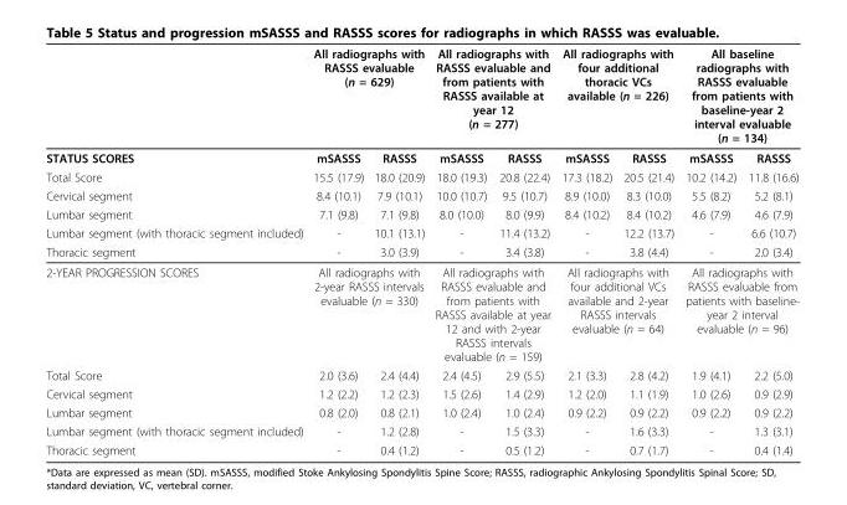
<table><thead><tr><td rowspan="2">STATUS SCORES</td><td colspan="2">All radiographs with RASSS evaluable (n = 629)</td><td colspan="2">All radiographs with RASSS evaluable and from patients with RASSS available at year 12 (n = 277)</td><td colspan="2">All radiographs with four additional thoracic VCs available (n = 226)</td><td colspan="2">All baseline radiographs with RASSS evaluable from patients with baseline-year 2 interval evaluable (n = 134)</td></tr><tr><td>mSASSS</td><td>RASSS</td><td>mSASSS</td><td>RASSS</td><td>mSASSS</td><td>RASSS</td><td>mSASSS</td><td>RASSS</td></tr></thead><tbody><tr><td>Total Score</td><td>15.5 (17.9)</td><td>18.0 (20.9)</td><td>18.0 (19.3)</td><td>20.8 (22.4)</td><td>17.3 (18.2)</td><td>20.5 (21.4)</td><td>10.2 (14.2)</td><td>11.8 (16.6)</td></tr><tr><td>Cervical segment</td><td>8.4 (10.1)</td><td>7.9 (10.1)</td><td>10.0 (10.7)</td><td>9.5 (10.7)</td><td>8.9 (10.0)</td><td>8.3 (10.0)</td><td>5.5 (8.2)</td><td>5.2 (8.1)</td></tr><tr><td>Lumbar segment</td><td>7.1 (9.8)</td><td>7.1 (9.8)</td><td>8.0 (10.0)</td><td>8.0 (9.9)</td><td>8.4 (10.2)</td><td>8.4 (10.2)</td><td>4.6 (7.9)</td><td>4.6 (7.9)</td></tr><tr><td>Lumbar segment (with thoracic segment included)</td><td>-</td><td>10.1 (13.1)</td><td>-</td><td>11.4 (13.2)</td><td>-</td><td>12.2 (13.7)</td><td>-</td><td>6.6 (10.7)</td></tr><tr><td>Thoracic segment</td><td>-</td><td>3.0 (3.9)</td><td>-</td><td>3.4 (3.8)</td><td>-</td><td>3.8 (4.4)</td><td>-</td><td>2.0 (3.4)</td></tr><tr><td>2-YEAR PROGRESSION SCORES</td><td colspan="2">All radiographs with 2-year RASSS intervals evaluable (n = 330)</td><td colspan="2">All radiographs with RASSS evaluable and from patients with RASSS available at year 12 and with 2-year RASSS intervals evaluable (n = 159)</td><td colspan="2">All radiographs with four additional VCs available and 2-year RASSS intervals evaluable (n = 64)</td><td colspan="2">All radiographs with RASSS evaluable from patients with baseline- year 2 interval evaluable (n = 96)</td></tr><tr><td>Total Score</td><td>2.0 (3.6)</td><td>2.4 (4.4)</td><td>2.4 (4.5)</td><td>2.9 (5.5)</td><td>2.1 (3.3)</td><td>2.8 (4.2)</td><td>1.9 (4.1)</td><td>2.2 (5.0)</td></tr><tr><td>Cervical segment</td><td>1.2 (2.2)</td><td>1.2 (2.3)</td><td>1.5 (2.6)</td><td>1.4 (2.9)</td><td>1.2 (2.0)</td><td>1.1 (1.9)</td><td>1.0 (2.6)</td><td>0.9 (2.9)</td></tr><tr><td>Lumbar segment</td><td>0.8 (2.0)</td><td>0.8 (2.1)</td><td>1.0 (2.4)</td><td>1.0 (2.4)</td><td>0.9 (2.2)</td><td>0.9 (2.2)</td><td>0.9 (2.2)</td><td>0.9 (2.2)</td></tr><tr><td>Lumbar segment (with thoracic segment included)</td><td>-</td><td>1.2 (2.8)</td><td>-</td><td>1.5 (3.3)</td><td>-</td><td>1.6 (3.3)</td><td>-</td><td>1.3 (3.1)</td></tr><tr><td>Thoracic segment</td><td>-</td><td>0.4 (1.2)</td><td>-</td><td>0.5 (1.2)</td><td>-</td><td>0.7 (1.7)</td><td>-</td><td>0.4 (1.4)</td></tr></tbody></table>